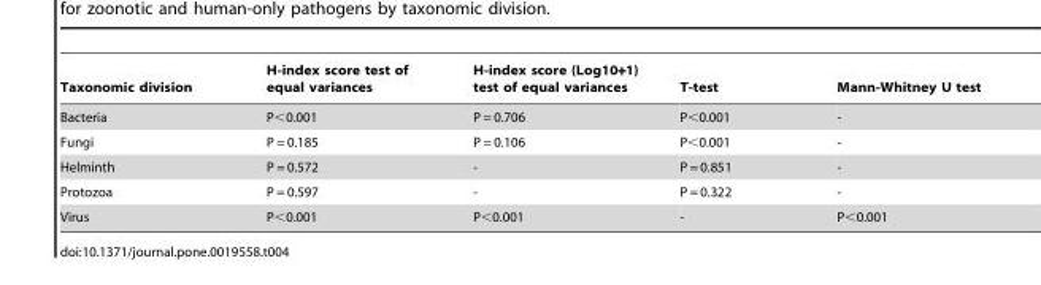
<table><thead><tr><td>Taxonomic division</td><td>H-index score test of equal variances</td><td>H-index score (Log10+1) test of equal variances</td><td>T-test</td><td>Mann-Whitney U test</td></tr></thead><tbody><tr><td>Bacteria</td><td>P&lt;0.001</td><td>P = 0.706</td><td>P&lt;0.001</td><td>-</td></tr><tr><td>Fungi</td><td>P = 0.185</td><td>P = 0.106</td><td>P&lt;0.001</td><td>-</td></tr><tr><td>Helminth</td><td>P = 0.572</td><td>-</td><td>P = 0.851</td><td>-</td></tr><tr><td>Protozoa</td><td>P = 0.597</td><td>-</td><td>P = 0.322</td><td>-</td></tr><tr><td>Virus</td><td>P&lt;0.001</td><td>P&lt;0.001</td><td>-</td><td>P&lt;0.001</td></tr></tbody></table>